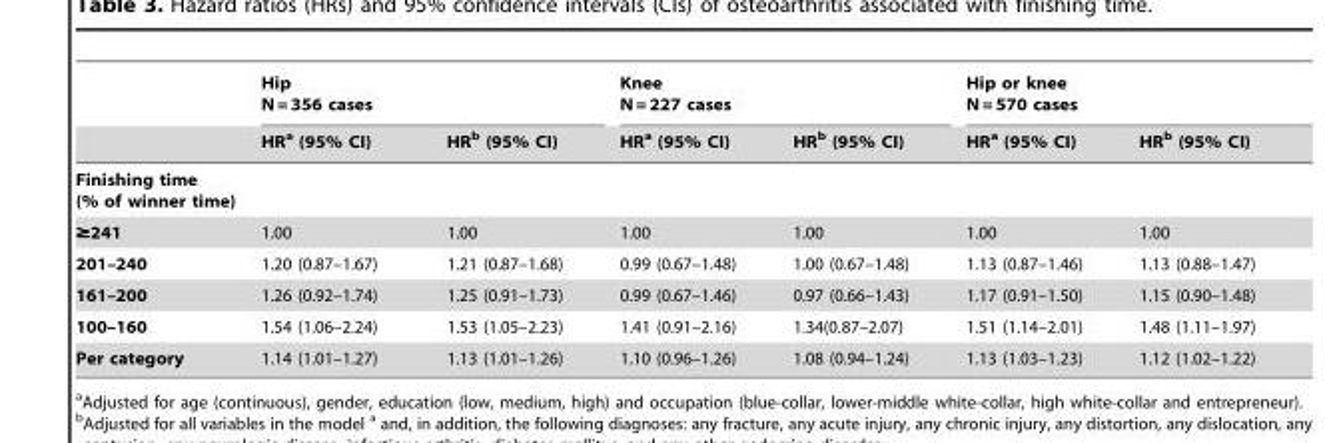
<table><thead><tr><td rowspan="2"></td><td colspan="2">Hip N = 356 cases</td><td colspan="2">Knee N = 227 cases</td><td colspan="2">Hip or knee N = 570 cases</td></tr><tr><td>HR<sup>a</sup> (95% CI)</td><td>HR<sup>b</sup> (95% CI)</td><td>HR<sup>a</sup> (95% CI)</td><td>HR<sup>b</sup> (95% CI)</td><td>HR<sup>a</sup> (95% CI)</td><td>HR<sup>b</sup> (95% CI)</td></tr></thead><tbody><tr><td colspan="7">Finishing time (% of winner time)</td></tr><tr><td>≥241</td><td>1.00</td><td>1.00</td><td>1.00</td><td>1.00</td><td>1.00</td><td>1.00</td></tr><tr><td>201–240</td><td>1.20 (0.87–1.67)</td><td>1.21 (0.87–1.68)</td><td>0.99 (0.67–1.48)</td><td>1.00 (0.67–1.48)</td><td>1.13 (0.87–1.46)</td><td>1.13 (0.88–1.47)</td></tr><tr><td>161–200</td><td>1.26 (0.92–1.74)</td><td>1.25 (0.91–1.73)</td><td>0.99 (0.67–1.46)</td><td>0.97 (0.66–1.43)</td><td>1.17 (0.91–1.50)</td><td>1.15 (0.90–1.48)</td></tr><tr><td>100–160</td><td>1.54 (1.06–2.24)</td><td>1.53 (1.05–2.23)</td><td>1.41 (0.91–2.16)</td><td>1.34(0.87–2.07)</td><td>1.51 (1.14–2.01)</td><td>1.48 (1.11–1.97)</td></tr><tr><td>Per category</td><td>1.14 (1.01–1.27)</td><td>1.13 (1.01–1.26)</td><td>1.10 (0.96–1.26)</td><td>1.08 (0.94–1.24)</td><td>1.13 (1.03–1.23)</td><td>1.12 (1.02–1.22)</td></tr></tbody></table>